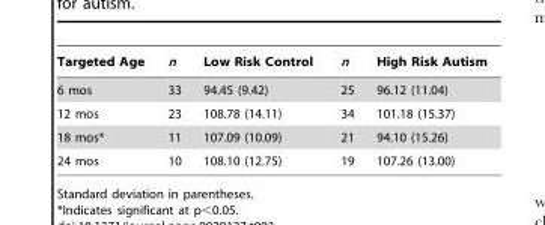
<table><thead><tr><td>Targeted Age</td><td>n</td><td>Low Risk Control</td><td>n</td><td>High Risk Autism</td></tr></thead><tbody><tr><td>6 mos</td><td>33</td><td>94.45 (9.42)</td><td>25</td><td>96.12 (11.04)</td></tr><tr><td>12 mos</td><td>23</td><td>108.78 (14.11)</td><td>34</td><td>101.18 (15.37)</td></tr><tr><td>18 mos*</td><td>11</td><td>107.09 (10.09)</td><td>21</td><td>94.10 (15.26)</td></tr><tr><td>24 mos</td><td>10</td><td>108.10 (12.75)</td><td>19</td><td>107.26 (13.00)</td></tr></tbody></table>